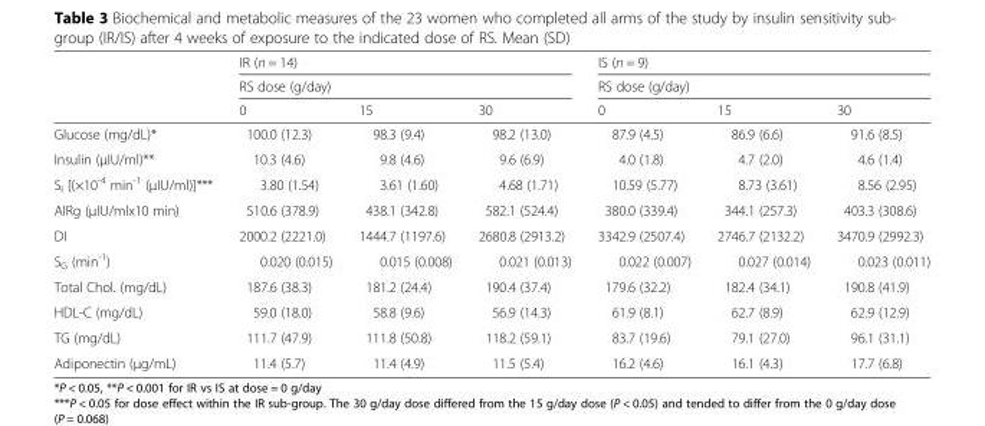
<table><thead><tr><td rowspan="3"></td><td rowspan="2" colspan="3">IR (n = 14) RS dose (g/day)</td><td rowspan="2" colspan="3">IS (n = 9) RS dose (g/day)</td></tr><tr></tr><tr><td>0</td><td>15</td><td>30</td><td>0</td><td>15</td><td>30</td></tr></thead><tbody><tr><td>Glucose (mg/dL)*</td><td>100.0 (12.3)</td><td>98.3 (9.4)</td><td>98.2 (13.0)</td><td>87.9 (4.5)</td><td>86.9 (6.6)</td><td>91.6 (8.5)</td></tr><tr><td>Insulin (μIU/ml)**</td><td>10.3 (4.6)</td><td>9.8 (4.6)</td><td>9.6 (6.9)</td><td>4.0 (1.8)</td><td>4.7 (2.0)</td><td>4.6 (1.4)</td></tr><tr><td>S<sub>I</sub> [(×10<sup>-4</sup> min<sup>-1</sup> (μIU/ml)]***</td><td>3.80 (1.54)</td><td>3.61 (1.60)</td><td>4.68 (1.71)</td><td>10.59 (5.77)</td><td>8.73 (3.61)</td><td>8.56 (2.95)</td></tr><tr><td>AIRg (μIU/mlx10 min)</td><td>510.6 (378.9)</td><td>438.1 (342.8)</td><td>582.1 (524.4)</td><td>380.0 (339.4)</td><td>344.1 (257.3)</td><td>403.3 (308.6)</td></tr><tr><td>DI</td><td>2000.2 (2221.0)</td><td>1444.7 (1197.6)</td><td>2680.8 (2913.2)</td><td>3342.9 (2507.4)</td><td>2746.7 (2132.2)</td><td>3470.9 (2992.3)</td></tr><tr><td>S<sub>G</sub> (min<sup>-1</sup>)</td><td>0.020 (0.015)</td><td>0.015 (0.008)</td><td>0.021 (0.013)</td><td>0.022 (0.007)</td><td>0.027 (0.014)</td><td>0.023 (0.011)</td></tr><tr><td>Total Chol. (mg/dL)</td><td>187.6 (38.3)</td><td>181.2 (24.4)</td><td>190.4 (37.4)</td><td>179.6 (32.2)</td><td>182.4 (34.1)</td><td>190.8 (41.9)</td></tr><tr><td>HDL-C (mg/dL)</td><td>59.0 (18.0)</td><td>58.8 (9.6)</td><td>56.9 (14.3)</td><td>61.9 (8.1)</td><td>62.7 (8.9)</td><td>62.9 (12.9)</td></tr><tr><td>TG (mg/dL)</td><td>111.7 (47.9)</td><td>111.8 (50.8)</td><td>118.2 (59.1)</td><td>83.7 (19.6)</td><td>79.1 (27.0)</td><td>96.1 (31.1)</td></tr><tr><td>Adiponectin (μg/mL)</td><td>11.4 (5.7)</td><td>11.4 (4.9)</td><td>11.5 (5.4)</td><td>16.2 (4.6)</td><td>16.1 (4.3)</td><td>17.7 (6.8)</td></tr></tbody></table>